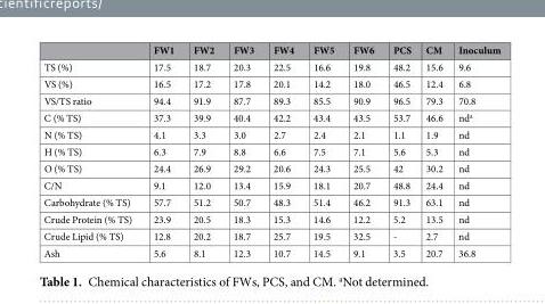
<table><thead><tr><td></td><td>FW1</td><td>FW2</td><td>FW3</td><td>FW4</td><td>FW5</td><td>FW6</td><td>PCS</td><td>CM</td><td>Inoculum</td></tr></thead><tbody><tr><td>TS (%)</td><td>17.5</td><td>18.7</td><td>20.3</td><td>22.5</td><td>16.6</td><td>19.8</td><td>48.2</td><td>15.6</td><td>9.6</td></tr><tr><td>VS (%)</td><td>16.5</td><td>17.2</td><td>17.8</td><td>20.1</td><td>14.2</td><td>18.0</td><td>46.5</td><td>12.4</td><td>6.8</td></tr><tr><td>VS/TS ratio</td><td>94.4</td><td>91.9</td><td>87.7</td><td>89.3</td><td>85.5</td><td>90.9</td><td>96.5</td><td>79.3</td><td>70.8</td></tr><tr><td>C (% TS)</td><td>37.3</td><td>39.9</td><td>40.4</td><td>42.2</td><td>43.4</td><td>43.5</td><td>53.7</td><td>46.6</td><td>nd<sup>a</sup></td></tr><tr><td>N (% TS)</td><td>4.1</td><td>3.3</td><td>3.0</td><td>2.7</td><td>2.4</td><td>2.1</td><td>1.1</td><td>1.9</td><td>nd</td></tr><tr><td>H (% TS)</td><td>6.3</td><td>7.9</td><td>8.8</td><td>6.6</td><td>7.5</td><td>7.1</td><td>5.6</td><td>5.3</td><td>nd</td></tr><tr><td>O (% TS)</td><td>24.4</td><td>26.9</td><td>29.2</td><td>20.6</td><td>24.3</td><td>25.5</td><td>42</td><td>30.2</td><td>nd</td></tr><tr><td>C/N</td><td>9.1</td><td>12.0</td><td>13.4</td><td>15.9</td><td>18.1</td><td>20.7</td><td>48.8</td><td>24.4</td><td>nd</td></tr><tr><td>Carbohydrate (% TS)</td><td>57.7</td><td>51.2</td><td>50.7</td><td>48.3</td><td>51.4</td><td>46.2</td><td>91.3</td><td>63.1</td><td>nd</td></tr><tr><td>Crude Protein (% TS)</td><td>23.9</td><td>20.5</td><td>18.3</td><td>15.3</td><td>14.6</td><td>12.2</td><td>5.2</td><td>13.5</td><td>nd</td></tr><tr><td>Crude Lipid (% TS)</td><td>12.8</td><td>20.2</td><td>18.7</td><td>25.7</td><td>19.5</td><td>32.5</td><td>-</td><td>2.7</td><td>nd</td></tr><tr><td>Ash</td><td>5.6</td><td>8.1</td><td>12.3</td><td>10.7</td><td>14.5</td><td>9.1</td><td>3.5</td><td>20.7</td><td>36.8</td></tr></tbody></table>